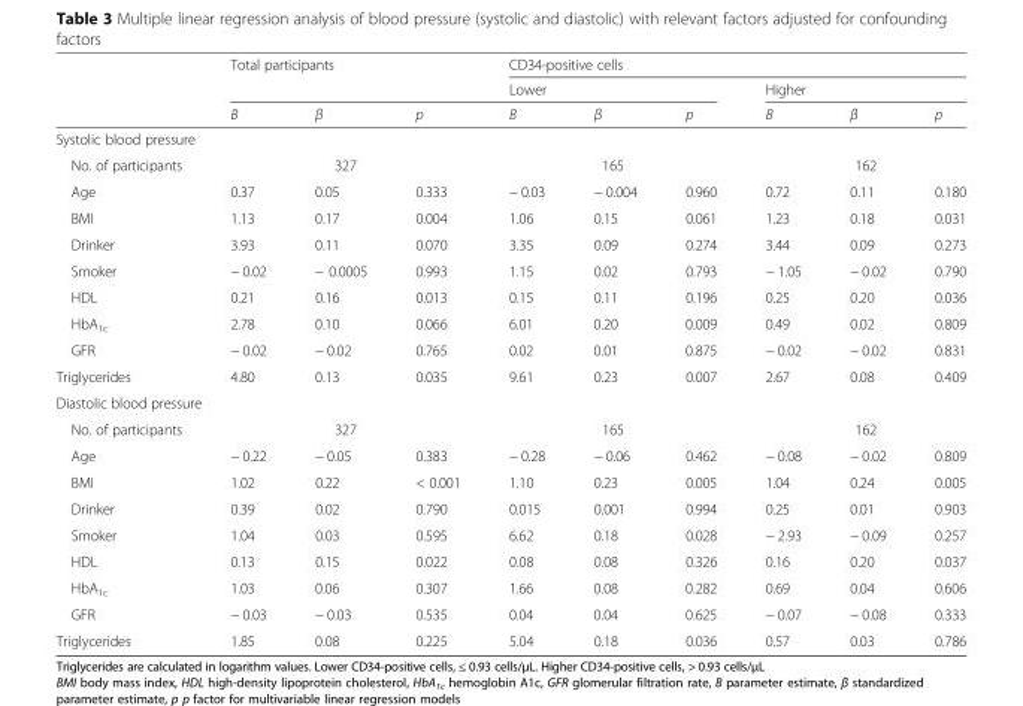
<table><thead><tr><td rowspan="3"></td><td rowspan="2" colspan="3">Total participants</td><td colspan="6">CD34-positive cells</td></tr><tr><td colspan="3">Lower</td><td colspan="3">Higher</td></tr><tr><td>Β</td><td>β</td><td>p</td><td>Β</td><td>β</td><td>p</td><td>Β</td><td>β</td><td>p</td></tr></thead><tbody><tr><td colspan="10">Systolic blood pressure</td></tr><tr><td>No. of participants</td><td colspan="3">327</td><td colspan="3">165</td><td colspan="3">162</td></tr><tr><td>Age</td><td>0.37</td><td>0.05</td><td>0.333</td><td>− 0.03</td><td>− 0.004</td><td>0.960</td><td>0.72</td><td>0.11</td><td>0.180</td></tr><tr><td>BMI</td><td>1.13</td><td>0.17</td><td>0.004</td><td>1.06</td><td>0.15</td><td>0.061</td><td>1.23</td><td>0.18</td><td>0.031</td></tr><tr><td>Drinker</td><td>3.93</td><td>0.11</td><td>0.070</td><td>3.35</td><td>0.09</td><td>0.274</td><td>3.44</td><td>0.09</td><td>0.273</td></tr><tr><td>Smoker</td><td>− 0.02</td><td>− 0.0005</td><td>0.993</td><td>1.15</td><td>0.02</td><td>0.793</td><td>− 1.05</td><td>− 0.02</td><td>0.790</td></tr><tr><td>HDL</td><td>0.21</td><td>0.16</td><td>0.013</td><td>0.15</td><td>0.11</td><td>0.196</td><td>0.25</td><td>0.20</td><td>0.036</td></tr><tr><td>HbA<sub>1c</sub></td><td>2.78</td><td>0.10</td><td>0.066</td><td>6.01</td><td>0.20</td><td>0.009</td><td>0.49</td><td>0.02</td><td>0.809</td></tr><tr><td>GFR</td><td>− 0.02</td><td>− 0.02</td><td>0.765</td><td>0.02</td><td>0.01</td><td>0.875</td><td>− 0.02</td><td>− 0.02</td><td>0.831</td></tr><tr><td>Triglycerides</td><td>4.80</td><td>0.13</td><td>0.035</td><td>9.61</td><td>0.23</td><td>0.007</td><td>2.67</td><td>0.08</td><td>0.409</td></tr><tr><td colspan="10">Diastolic blood pressure</td></tr><tr><td>No. of participants</td><td colspan="3">327</td><td colspan="3">165</td><td colspan="3">162</td></tr><tr><td>Age</td><td>− 0.22</td><td>− 0.05</td><td>0.383</td><td>− 0.28</td><td>− 0.06</td><td>0.462</td><td>− 0.08</td><td>− 0.02</td><td>0.809</td></tr><tr><td>BMI</td><td>1.02</td><td>0.22</td><td>&lt; 0.001</td><td>1.10</td><td>0.23</td><td>0.005</td><td>1.04</td><td>0.24</td><td>0.005</td></tr><tr><td>Drinker</td><td>0.39</td><td>0.02</td><td>0.790</td><td>0.015</td><td>0.001</td><td>0.994</td><td>0.25</td><td>0.01</td><td>0.903</td></tr><tr><td>Smoker</td><td>1.04</td><td>0.03</td><td>0.595</td><td>6.62</td><td>0.18</td><td>0.028</td><td>− 2.93</td><td>− 0.09</td><td>0.257</td></tr><tr><td>HDL</td><td>0.13</td><td>0.15</td><td>0.022</td><td>0.08</td><td>0.08</td><td>0.326</td><td>0.16</td><td>0.20</td><td>0.037</td></tr><tr><td>HbA<sub>1c</sub></td><td>1.03</td><td>0.06</td><td>0.307</td><td>1.66</td><td>0.08</td><td>0.282</td><td>0.69</td><td>0.04</td><td>0.606</td></tr><tr><td>GFR</td><td>− 0.03</td><td>− 0.03</td><td>0.535</td><td>0.04</td><td>0.04</td><td>0.625</td><td>− 0.07</td><td>− 0.08</td><td>0.333</td></tr><tr><td>Triglycerides</td><td>1.85</td><td>0.08</td><td>0.225</td><td>5.04</td><td>0.18</td><td>0.036</td><td>0.57</td><td>0.03</td><td>0.786</td></tr></tbody></table>